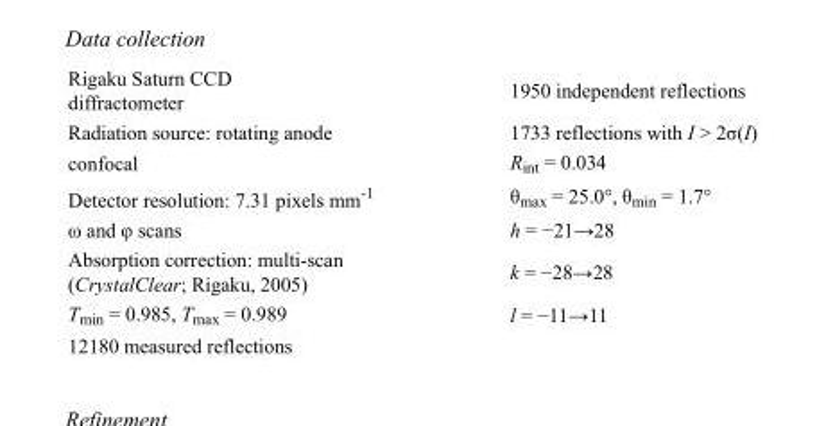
<table><tbody><tr><td>Rigaku Saturn CCD diffractometer</td><td>1950 independent reflections</td></tr><tr><td>Radiation source: rotating anode</td><td>1733 reflections with I &gt; 2σ(I)</td></tr><tr><td>confocal</td><td>R<sub>int</sub> = 0.034</td></tr><tr><td>Detector resolution: 7.31 pixels mm<sup>-1</sup></td><td>θ<sub>max</sub> = 25.0°, θ<sub>min</sub> = 1.7°</td></tr><tr><td>ω and φ scans</td><td>h = −21→28</td></tr><tr><td>Absorption correction: multi-scan (CrystalClear; Rigaku, 2005)</td><td>k = −28→28</td></tr><tr><td>T<sub>min</sub> = 0.985, T<sub>max</sub> = 0.989</td><td>l = −11→11</td></tr><tr><td>12180 measured reflections</td><td></td></tr></tbody></table>